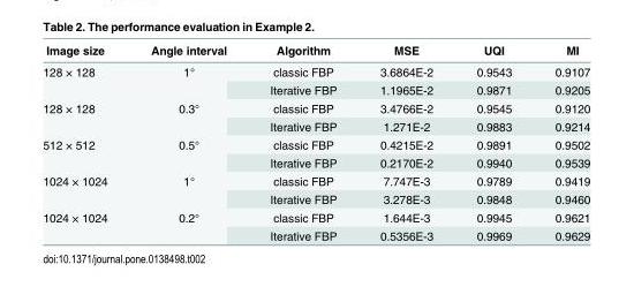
<table><thead><tr><td>Image size</td><td>Angle interval</td><td>Algorithm</td><td>MSE</td><td>UQI</td><td>MI</td></tr></thead><tbody><tr><td rowspan="2">128 × 128</td><td rowspan="2">1°</td><td>classic FBP</td><td>3.6864E-2</td><td>0.9543</td><td>0.9107</td></tr><tr><td>Iterative FBP</td><td>1.1965E-2</td><td>0.9871</td><td>0.9205</td></tr><tr><td rowspan="2">128 × 128</td><td rowspan="2">0.3°</td><td>classic FBP</td><td>3.4766E-2</td><td>0.9545</td><td>0.9120</td></tr><tr><td>Iterative FBP</td><td>1.271E-2</td><td>0.9883</td><td>0.9214</td></tr><tr><td rowspan="2">512 × 512</td><td rowspan="2">0.5°</td><td>classic FBP</td><td>0.4215E-2</td><td>0.9891</td><td>0.9502</td></tr><tr><td>Iterative FBP</td><td>0.2170E-2</td><td>0.9940</td><td>0.9539</td></tr><tr><td rowspan="2">1024 × 1024</td><td rowspan="2">1°</td><td>classic FBP</td><td>7.747E-3</td><td>0.9789</td><td>0.9419</td></tr><tr><td>Iterative FBP</td><td>3.278E-3</td><td>0.9848</td><td>0.9460</td></tr><tr><td rowspan="2">1024 × 1024</td><td rowspan="2">0.2°</td><td>classic FBP</td><td>1.644E-3</td><td>0.9945</td><td>0.9621</td></tr><tr><td>Iterative FBP</td><td>0.5356E-3</td><td>0.9969</td><td>0.9629</td></tr></tbody></table>